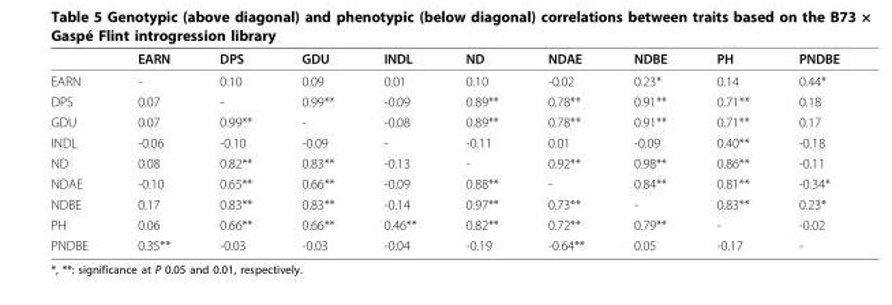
<table><thead><tr><td></td><td>EARN</td><td>DPS</td><td>GDU</td><td>INDL</td><td>ND</td><td>NDAE</td><td>NDBE</td><td>PH</td><td>PNDBE</td></tr></thead><tbody><tr><td>EARN</td><td>-</td><td>0.10</td><td>0.09</td><td>0.01</td><td>0.10</td><td>-0.02</td><td>0.23*</td><td>0.14</td><td>0.44*</td></tr><tr><td>DPS</td><td>0.07</td><td>-</td><td>0.99**</td><td>-0.09</td><td>0.89**</td><td>0.78**</td><td>0.91**</td><td>0.71**</td><td>0.18</td></tr><tr><td>GDU</td><td>0.07</td><td>0.99**</td><td>-</td><td>-0.08</td><td>0.89**</td><td>0.78**</td><td>0.91**</td><td>0.71**</td><td>0.17</td></tr><tr><td>INDL</td><td>-0.06</td><td>-0.10</td><td>-0.09</td><td>-</td><td>-0.11</td><td>0.01</td><td>-0.09</td><td>0.40**</td><td>-0.18</td></tr><tr><td>ND</td><td>0.08</td><td>0.82**</td><td>0.83**</td><td>-0.13</td><td>-</td><td>0.92**</td><td>0.98**</td><td>0.86**</td><td>-0.11</td></tr><tr><td>NDAE</td><td>-0.10</td><td>0.65**</td><td>0.66**</td><td>-0.09</td><td>0.88**</td><td>-</td><td>0.84**</td><td>0.81**</td><td>-0.34*</td></tr><tr><td>NDBE</td><td>0.17</td><td>0.83**</td><td>0.83**</td><td>-0.14</td><td>0.97**</td><td>0.73**</td><td>-</td><td>0.83**</td><td>0.23*</td></tr><tr><td>PH</td><td>0.06</td><td>0.66**</td><td>0.66**</td><td>0.46**</td><td>0.82**</td><td>0.72**</td><td>0.79**</td><td>-</td><td>-0.02</td></tr><tr><td>PNDBE</td><td>0.35**</td><td>-0.03</td><td>-0.03</td><td>-0.04</td><td>-0.19</td><td>-0.64**</td><td>0.05</td><td>-0.17</td><td>-</td></tr></tbody></table>